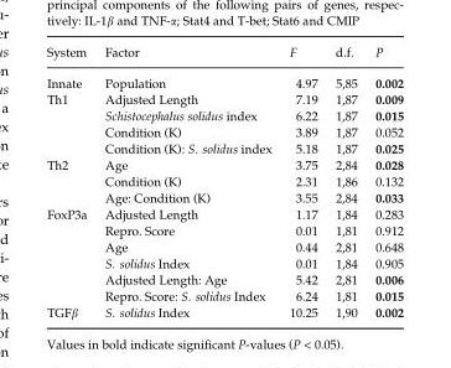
<table><thead><tr><td>System</td><td>Factor</td><td>F</td><td>d.f.</td><td>P</td></tr></thead><tbody><tr><td>Innate</td><td>Population</td><td>4.97</td><td>5,85</td><td>0.002</td></tr><tr><td rowspan="4">Th1</td><td>Adjusted Length</td><td>7.19</td><td>1,87</td><td>0.009</td></tr><tr><td>Schistocephalus solidus index</td><td>6.22</td><td>1,87</td><td>0.015</td></tr><tr><td>Condition (K)</td><td>3.89</td><td>1,87</td><td>0.052</td></tr><tr><td>Condition (K): S. solidus index</td><td>5.18</td><td>1,87</td><td>0.025</td></tr><tr><td rowspan="3">Th2</td><td>Age</td><td>3.75</td><td>2,84</td><td>0.028</td></tr><tr><td>Condition (K)</td><td>2.31</td><td>1,86</td><td>0.132</td></tr><tr><td>Age: Condition (K)</td><td>3.55</td><td>2,84</td><td>0.033</td></tr><tr><td rowspan="6">FoxP3a</td><td>Adjusted Length</td><td>1.17</td><td>1,84</td><td>0.283</td></tr><tr><td>Repro. Score</td><td>0.01</td><td>1,81</td><td>0.912</td></tr><tr><td>Age</td><td>0.44</td><td>2,81</td><td>0.648</td></tr><tr><td>S. solidus Index</td><td>0.01</td><td>1,84</td><td>0.905</td></tr><tr><td>Adjusted Length: Age</td><td>5.42</td><td>2,81</td><td>0.006</td></tr><tr><td>Repro. Score: S. solidus Index</td><td>6.24</td><td>1,81</td><td>0.015</td></tr><tr><td>TGFβ</td><td>S. solidus Index</td><td>10.25</td><td>1,90</td><td>0.002</td></tr></tbody></table>